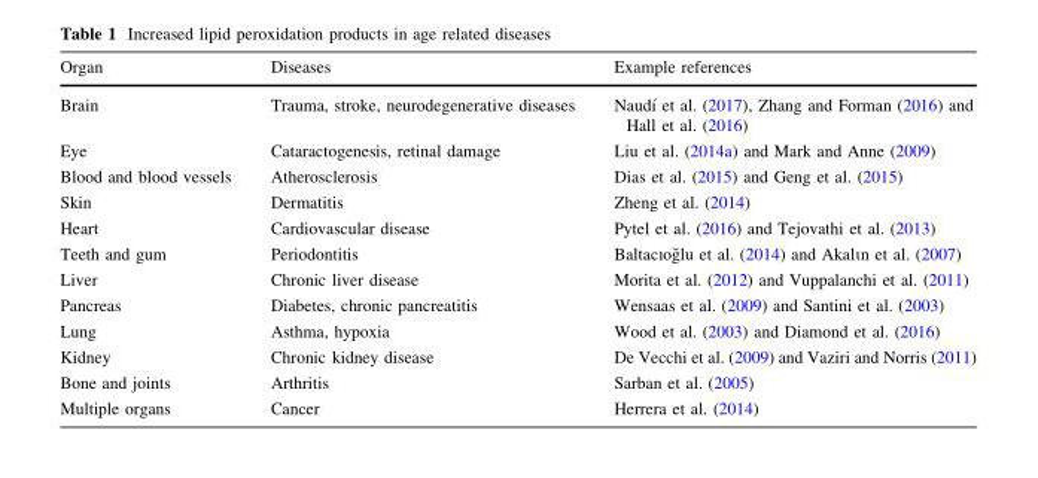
<table><thead><tr><td>Organ</td><td>Diseases</td><td>Example references</td></tr></thead><tbody><tr><td>Brain</td><td>Trauma, stroke, neurodegenerative diseases</td><td>Naudı´ et al. (2017), Zhang and Forman (2016) and Hall et al. (2016)</td></tr><tr><td>Eye</td><td>Cataractogenesis, retinal damage</td><td>Liu et al. (2014a) and Mark and Anne (2009)</td></tr><tr><td>Blood and blood vessels</td><td>Atherosclerosis</td><td>Dias et al. (2015) and Geng et al. (2015)</td></tr><tr><td>Skin</td><td>Dermatitis</td><td>Zheng et al. (2014)</td></tr><tr><td>Heart</td><td>Cardiovascular disease</td><td>Pytel et al. (2016) and Tejovathi et al. (2013)</td></tr><tr><td>Teeth and gum</td><td>Periodontitis</td><td>Baltacıog˘lu et al. (2014) and Akalin et al. (2007)</td></tr><tr><td>Liver</td><td>Chronic liver disease</td><td>Morita et al. (2012) and Vuppalanchi et al. (2011)</td></tr><tr><td>Pancreas</td><td>Diabetes, chronic pancreatitis</td><td>Wensaas et al. (2009) and Santini et al. (2003)</td></tr><tr><td>Lung</td><td>Asthma, hypoxia</td><td>Wood et al. (2003) and Diamond et al. (2016)</td></tr><tr><td>Kidney</td><td>Chronic kidney disease</td><td>De Vecchi et al. (2009) and Vaziri and Norris (2011)</td></tr><tr><td>Bone and joints</td><td>Arthritis</td><td>Sarban et al. (2005)</td></tr><tr><td>Multiple organs</td><td>Cancer</td><td>Herrera et al. (2014)</td></tr></tbody></table>